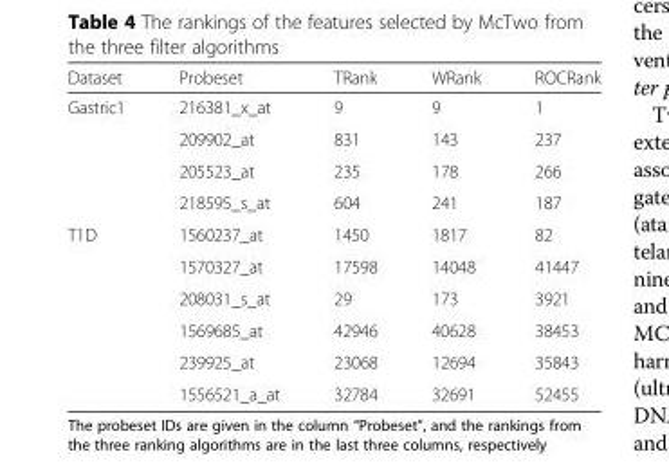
<table><thead><tr><td>Dataset</td><td>Probeset</td><td>TRank</td><td>WRank</td><td>ROCRank</td></tr></thead><tbody><tr><td rowspan="4">Gastric1</td><td>216381_x_at</td><td>9</td><td>9</td><td>1</td></tr><tr><td>209902_at</td><td>831</td><td>143</td><td>237</td></tr><tr><td>205523_at</td><td>235</td><td>178</td><td>266</td></tr><tr><td>218595_s_at</td><td>604</td><td>241</td><td>187</td></tr><tr><td rowspan="6">T1D</td><td>1560237_at</td><td>1450</td><td>1817</td><td>82</td></tr><tr><td>1570327_at</td><td>17598</td><td>14048</td><td>41447</td></tr><tr><td>208031_s_at</td><td>29</td><td>173</td><td>3921</td></tr><tr><td>1569685_at</td><td>42946</td><td>40628</td><td>38453</td></tr><tr><td>239925_at</td><td>23068</td><td>12694</td><td>35843</td></tr><tr><td>1556521_a_at</td><td>32784</td><td>32691</td><td>52455</td></tr></tbody></table>